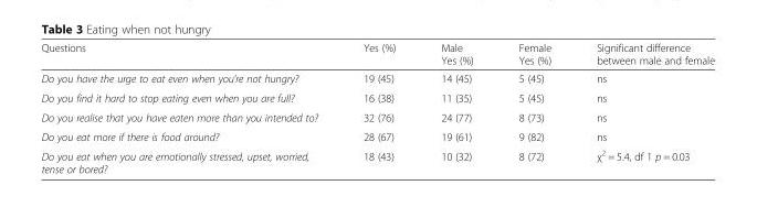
<table><thead><tr><td>Questions</td><td>Yes (%)</td><td>Male Yes (%)</td><td>Female Yes (%)</td><td>Significant difference between male and female</td></tr></thead><tbody><tr><td>Do you have the urge to eat even when you’re not hungry?</td><td>19 (45)</td><td>14 (45)</td><td>5 (45)</td><td>ns</td></tr><tr><td>Do you find it hard to stop eating even when you are full?</td><td>16 (38)</td><td>11 (35)</td><td>5 (45)</td><td>ns</td></tr><tr><td>Do you realise that you have eaten more than you intended to?</td><td>32 (76)</td><td>24 (77)</td><td>8 (73)</td><td>ns</td></tr><tr><td>Do you eat more if there is food around?</td><td>28 (67)</td><td>19 (61)</td><td>9 (82)</td><td>ns</td></tr><tr><td>Do you eat when you are emotionally stressed, upset, worried, tense or bored?</td><td>18 (43)</td><td>10 (32)</td><td>8 (72)</td><td>χ<sup>2</sup> = 5.4, df 1 p = 0.03</td></tr></tbody></table>